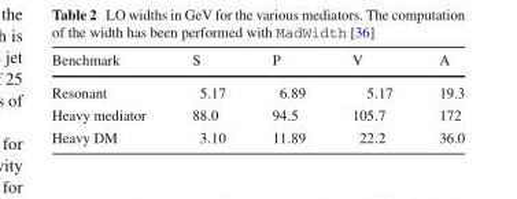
<table><thead><tr><td>Benchmark</td><td>S</td><td>P</td><td>V</td><td>A</td></tr></thead><tbody><tr><td>Resonant</td><td>5.17</td><td>6.89</td><td>5.17</td><td>19.3</td></tr><tr><td>Heavy mediator</td><td>88.0</td><td>94.5</td><td>105.7</td><td>172</td></tr><tr><td>Heavy DM</td><td>3.10</td><td>11.89</td><td>22.2</td><td>36.0</td></tr></tbody></table>